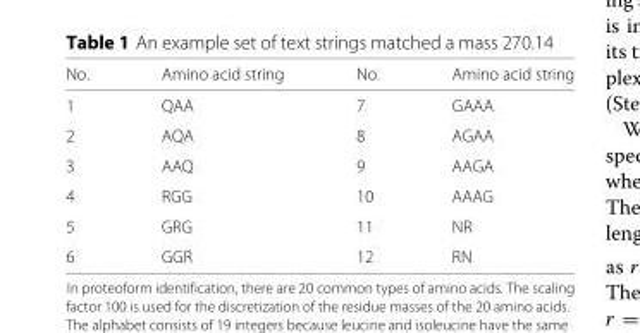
<table><thead><tr><td>No.</td><td>Amino acid string</td><td>No.</td><td>Amino acid string</td></tr></thead><tbody><tr><td>1</td><td>QAA</td><td>7</td><td>GAAA</td></tr><tr><td>2</td><td>AQA</td><td>8</td><td>AGAA</td></tr><tr><td>3</td><td>AAQ</td><td>9</td><td>AAGA</td></tr><tr><td>4</td><td>RGG</td><td>10</td><td>AAAG</td></tr><tr><td>5</td><td>GRG</td><td>11</td><td>NR</td></tr><tr><td>6</td><td>GGR</td><td>12</td><td>RN</td></tr></tbody></table>